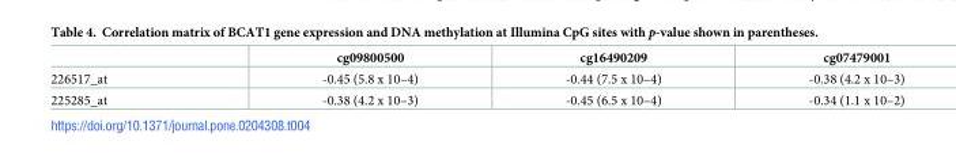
<table><thead><tr><td></td><td>cg09800500</td><td>cg16490209</td><td>cg07479001</td></tr></thead><tbody><tr><td>226517_at</td><td>-0.45 (5.8 x 10–4)</td><td>-0.44 (7.5 x 10–4)</td><td>-0.38 (4.2 x 10–3)</td></tr><tr><td>225285_at</td><td>-0.38 (4.2 x 10–3)</td><td>-0.45 (6.5 x 10–4)</td><td>-0.34 (1.1 x 10–2)</td></tr></tbody></table>